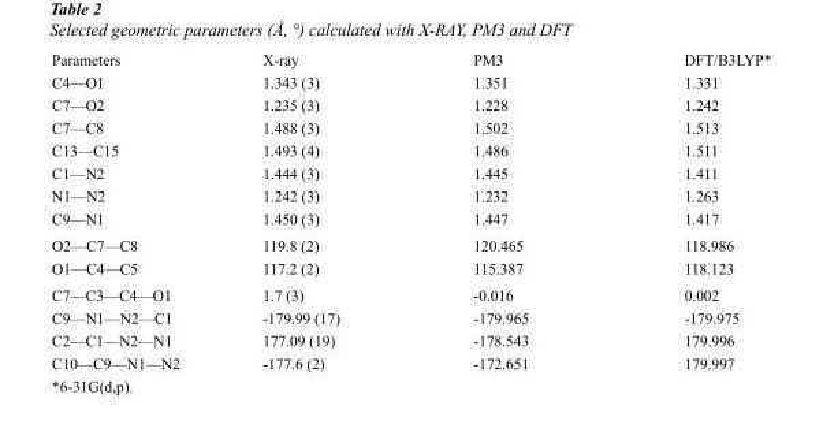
<table><thead><tr><td>Parameters</td><td>X-ray</td><td>PM3</td><td>DFT/B3LYP*</td></tr></thead><tbody><tr><td>C4—O1</td><td>1.343 (3)</td><td>1.351</td><td>1.331</td></tr><tr><td>C7—O2</td><td>1.235 (3)</td><td>1.228</td><td>1.242</td></tr><tr><td>C7—C8</td><td>1.488 (3)</td><td>1.502</td><td>1.513</td></tr><tr><td>C13—C15</td><td>1.493 (4)</td><td>1.486</td><td>1.511</td></tr><tr><td>C1—N2</td><td>1.444 (3)</td><td>1.445</td><td>1.411</td></tr><tr><td>N1—N2</td><td>1.242 (3)</td><td>1.232</td><td>1.263</td></tr><tr><td>C9—N1</td><td>1.450 (3)</td><td>1.447</td><td>1.417</td></tr><tr><td>O2—C7—C8</td><td>119.8 (2)</td><td>120.465</td><td>118.986</td></tr><tr><td>O1—C4—C5</td><td>117.2 (2)</td><td>115.387</td><td>118.123</td></tr><tr><td>C7—C3—C4—O1</td><td>1.7 (3)</td><td>-0.016</td><td>0.002</td></tr><tr><td>C9—N1—N2—C1</td><td>-179.99 (17)</td><td>-179.965</td><td>-179.975</td></tr><tr><td>C2—C1—N2—N1</td><td>177.09 (19)</td><td>-178.543</td><td>179.996</td></tr><tr><td>C10—C9—N1—N2</td><td>-177.6 (2)</td><td>-172.651</td><td>179.997</td></tr></tbody></table>